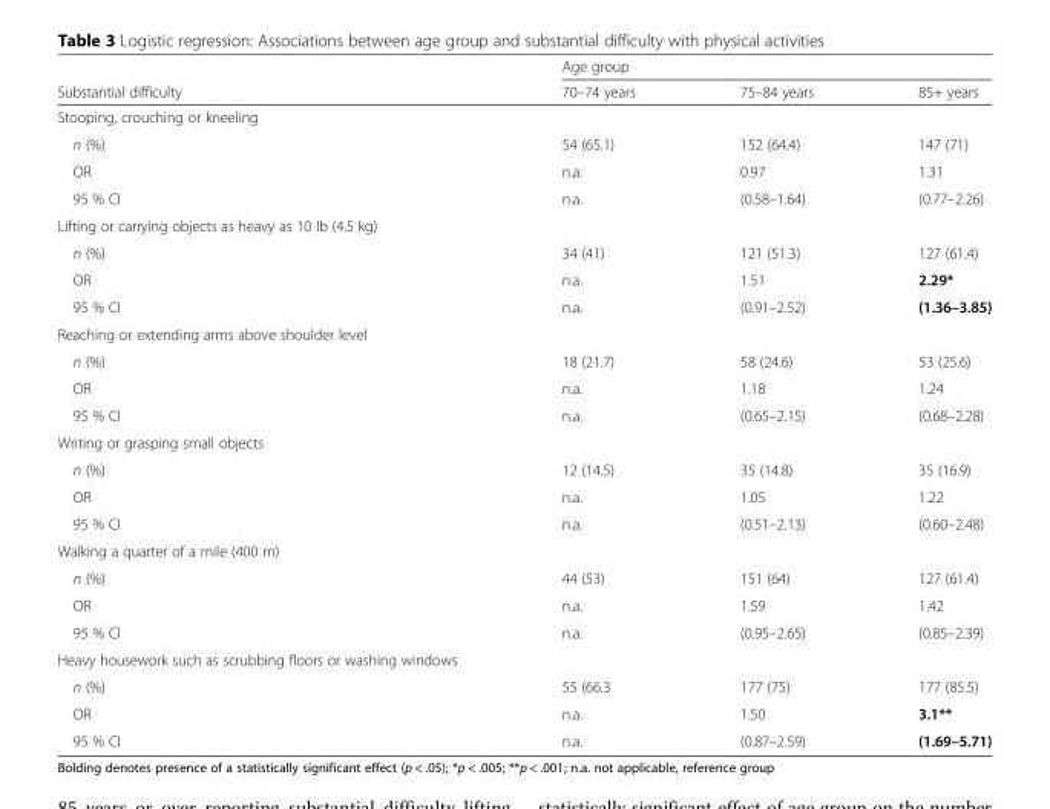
<table><thead><tr><td rowspan="2">Substantial difficulty</td><td colspan="3">Age group</td></tr><tr><td>70–74 years</td><td>75–84 years</td><td>85+ years</td></tr></thead><tbody><tr><td colspan="4">Stooping, crouching or kneeling</td></tr><tr><td>n (%)</td><td>54 (65.1)</td><td>152 (64.4)</td><td>147 (71)</td></tr><tr><td>OR</td><td>n.a.</td><td>0.97</td><td>1.31</td></tr><tr><td>95 % CI</td><td>n.a.</td><td>(0.58–1.64)</td><td>(0.77–2.26)</td></tr><tr><td colspan="4">Lifting or carrying objects as heavy as 10 lb (4.5 kg)</td></tr><tr><td>n (%)</td><td>34 (41)</td><td>121 (51.3)</td><td>127 (61.4)</td></tr><tr><td>OR</td><td>n.a.</td><td>1.51</td><td>2.29*</td></tr><tr><td>95 % CI</td><td>n.a.</td><td>(0.91–2.52)</td><td>(1.36–3.85)</td></tr><tr><td colspan="4">Reaching or extending arms above shoulder level</td></tr><tr><td>n (%)</td><td>18 (21.7)</td><td>58 (24.6)</td><td>53 (25.6)</td></tr><tr><td>OR</td><td>n.a.</td><td>1.18</td><td>1.24</td></tr><tr><td>95 % CI</td><td>n.a.</td><td>(0.65–2.15)</td><td>(0.68–2.28)</td></tr><tr><td colspan="4">Writing or grasping small objects</td></tr><tr><td>n (%)</td><td>12 (14.5)</td><td>35 (14.8)</td><td>35 (16.9)</td></tr><tr><td>OR</td><td>n.a.</td><td>1.05</td><td>1.22</td></tr><tr><td>95 % CI</td><td>n.a.</td><td>(0.51–2.13)</td><td>(0.60–2.48)</td></tr><tr><td colspan="4">Walking a quarter of a mile (400 m)</td></tr><tr><td>n (%)</td><td>44 (53)</td><td>151 (64)</td><td>127 (61.4)</td></tr><tr><td>OR</td><td>n.a.</td><td>1.59</td><td>1.42</td></tr><tr><td>95 % CI</td><td>n.a.</td><td>(0.95–2.65)</td><td>(0.85–2.39)</td></tr><tr><td colspan="4">Heavy housework such as scrubbing floors or washing windows</td></tr><tr><td>n (%)</td><td>55 (66.3</td><td>177 (75)</td><td>177 (85.5)</td></tr><tr><td>OR</td><td>n.a.</td><td>1.50</td><td>3.1**</td></tr><tr><td>95 % CI</td><td>n.a.</td><td>(0.87–2.59)</td><td>(1.69–5.71)</td></tr></tbody></table>